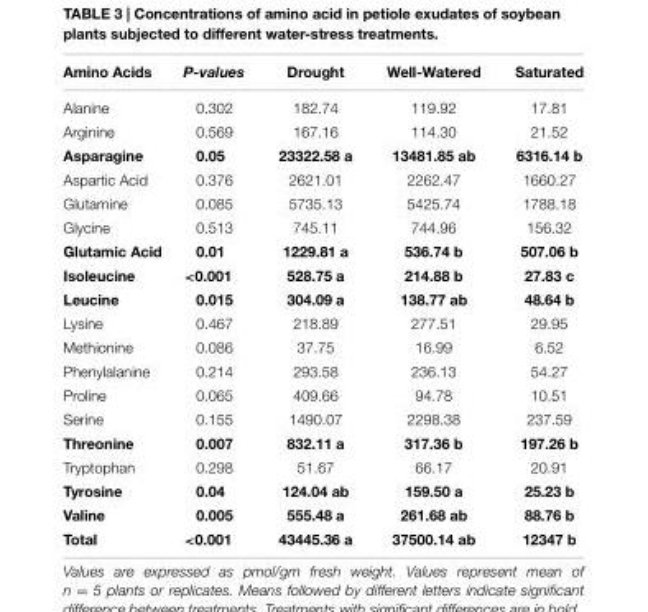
<table><thead><tr><td>Amino Acids</td><td>P-values</td><td>Drought</td><td>Well-Watered</td><td>Saturated</td></tr></thead><tbody><tr><td>Alanine</td><td>0.302</td><td>182.74</td><td>119.92</td><td>17.81</td></tr><tr><td>Arginine</td><td>0.569</td><td>167.16</td><td>114.30</td><td>21.52</td></tr><tr><td>Asparagine</td><td>0.05</td><td>23322.58 a</td><td>13481.85 ab</td><td>6316.14 b</td></tr><tr><td>Aspartic Acid</td><td>0.376</td><td>2621.01</td><td>2262.47</td><td>1660.27</td></tr><tr><td>Glutamine</td><td>0.085</td><td>5735.13</td><td>5425.74</td><td>1788.18</td></tr><tr><td>Glycine</td><td>0.513</td><td>745.11</td><td>744.96</td><td>156.32</td></tr><tr><td>Glutamic Acid</td><td>0.01</td><td>1229.81 a</td><td>536.74 b</td><td>507.06 b</td></tr><tr><td>Isoleucine</td><td>&lt;0.001</td><td>528.75 a</td><td>214.88 b</td><td>27.83 c</td></tr><tr><td>Leucine</td><td>0.015</td><td>304.09 a</td><td>138.77 ab</td><td>48.64 b</td></tr><tr><td>Lysine</td><td>0.467</td><td>218.89</td><td>277.51</td><td>29.95</td></tr><tr><td>Methionine</td><td>0.086</td><td>37.75</td><td>16.99</td><td>6.52</td></tr><tr><td>Phenylalanine</td><td>0.214</td><td>293.58</td><td>236.13</td><td>54.27</td></tr><tr><td>Proline</td><td>0.065</td><td>409.66</td><td>94.78</td><td>10.51</td></tr><tr><td>Serine</td><td>0.155</td><td>1490.07</td><td>2298.38</td><td>237.59</td></tr><tr><td>Threonine</td><td>0.007</td><td>832.11 a</td><td>317.36 b</td><td>197.26 b</td></tr><tr><td>Tryptophan</td><td>0.298</td><td>51.67</td><td>66.17</td><td>20.91</td></tr><tr><td>Tyrosine</td><td>0.04</td><td>124.04 ab</td><td>159.50 a</td><td>25.23 b</td></tr><tr><td>Valine</td><td>0.005</td><td>555.48 a</td><td>261.68 ab</td><td>88.76 b</td></tr><tr><td>Total</td><td>&lt;0.001</td><td>43445.36 a</td><td>37500.14 ab</td><td>12347 b</td></tr></tbody></table>